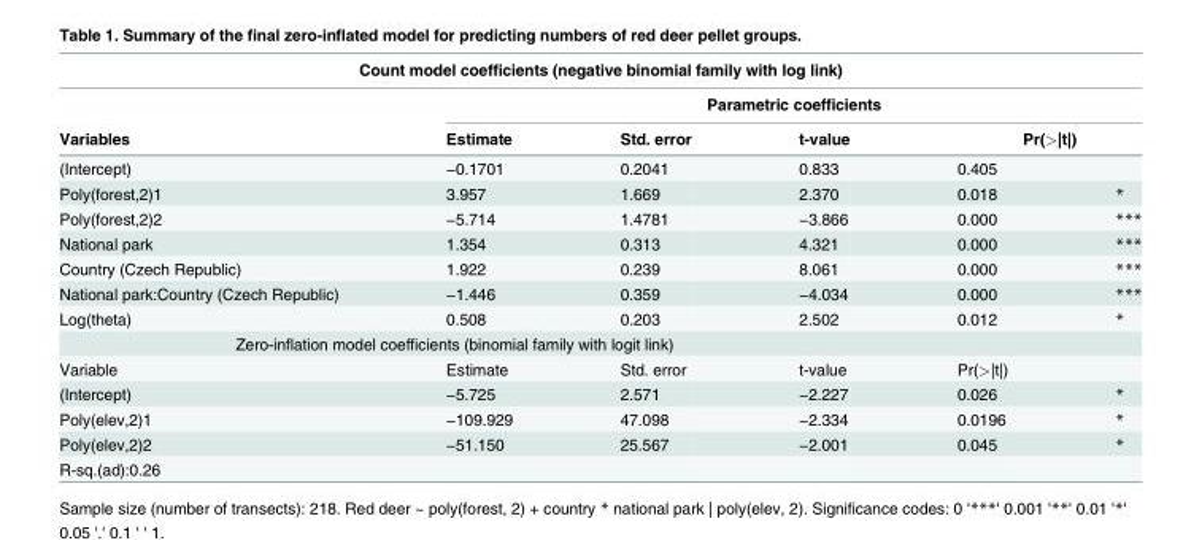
<table><thead><tr><td colspan="6">Count model coefficients (negative binomial family with log link)</td></tr><tr><td rowspan="3">Variables (Intercept)</td><td colspan="5">Parametric coefficients</td></tr><tr><td rowspan="2">Estimate −0.1701</td><td rowspan="2">Std. error 0.2041</td><td rowspan="2">t-value 0.833</td><td colspan="2">Pr(&gt;|t|)</td></tr><tr><td>0.405</td><td></td></tr></thead><tbody><tr><td>Poly(forest,2)1</td><td>3.957</td><td>1.669</td><td>2.370</td><td>0.018</td><td>*</td></tr><tr><td>Poly(forest,2)2</td><td>−5.714</td><td>1.4781</td><td>−3.866</td><td>0.000</td><td>***</td></tr><tr><td>National park</td><td>1.354</td><td>0.313</td><td>4.321</td><td>0.000</td><td>***</td></tr><tr><td>Country (Czech Republic)</td><td>1.922</td><td>0.239</td><td>8.061</td><td>0.000</td><td>***</td></tr><tr><td>National park:Country (Czech Republic)</td><td>−1.446</td><td>0.359</td><td>−4.034</td><td>0.000</td><td>***</td></tr><tr><td>Log(theta)</td><td>0.508</td><td>0.203</td><td>2.502</td><td>0.012</td><td>*</td></tr><tr><td colspan="6">Zero-inflation model coefficients (binomial family with logit link)</td></tr><tr><td>Variable</td><td>Estimate</td><td>Std. error</td><td>t-value</td><td>Pr(&gt;|t|)</td><td></td></tr><tr><td>(Intercept)</td><td>−5.725</td><td>2.571</td><td>−2.227</td><td>0.026</td><td>*</td></tr><tr><td>Poly(elev,2)1</td><td>−109.929</td><td>47.098</td><td>−2.334</td><td>0.0196</td><td>*</td></tr><tr><td>Poly(elev,2)2</td><td>−51.150</td><td>25.567</td><td>−2.001</td><td>0.045</td><td>*</td></tr><tr><td>R-sq.(ad):0.26</td><td></td><td></td><td></td><td></td><td></td></tr></tbody></table>